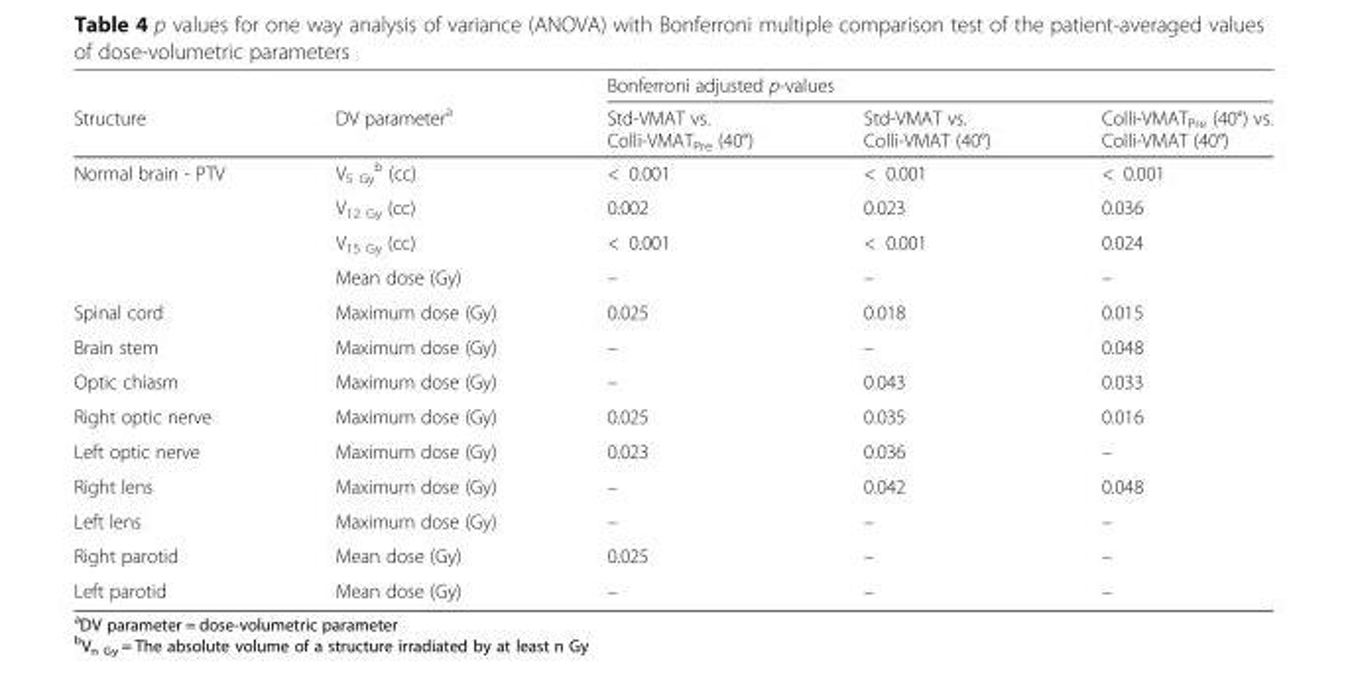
<table><thead><tr><td rowspan="2">Structure</td><td rowspan="2">DV parameter<sup>a</sup></td><td colspan="3">Bonferroni adjusted p-values</td></tr><tr><td>Std-VMAT vs. Colli-VMAT<sub>Pre</sub> (40°)</td><td>Std-VMAT vs. Colli-VMAT (40°)</td><td>Colli-VMAT<sub>Pre</sub> (40°) vs. Colli-VMAT (40°)</td></tr></thead><tbody><tr><td rowspan="4">Normal brain - PTV</td><td>V<sub>5 Gy</sub> <sup>b</sup> (cc)</td><td>&lt; 0.001</td><td>&lt; 0.001</td><td>&lt; 0.001</td></tr><tr><td>V<sub>12 Gy</sub> (cc)</td><td>0.002</td><td>0.023</td><td>0.036</td></tr><tr><td>V<sub>15 Gy</sub> (cc)</td><td>&lt; 0.001</td><td>&lt; 0.001</td><td>0.024</td></tr><tr><td>Mean dose (Gy)</td><td>–</td><td>–</td><td>–</td></tr><tr><td>Spinal cord</td><td>Maximum dose (Gy)</td><td>0.025</td><td>0.018</td><td>0.015</td></tr><tr><td>Brain stem</td><td>Maximum dose (Gy)</td><td>–</td><td>–</td><td>0.048</td></tr><tr><td>Optic chiasm</td><td>Maximum dose (Gy)</td><td>–</td><td>0.043</td><td>0.033</td></tr><tr><td>Right optic nerve</td><td>Maximum dose (Gy)</td><td>0.025</td><td>0.035</td><td>0.016</td></tr><tr><td>Left optic nerve</td><td>Maximum dose (Gy)</td><td>0.023</td><td>0.036</td><td>–</td></tr><tr><td>Right lens</td><td>Maximum dose (Gy)</td><td>–</td><td>0.042</td><td>0.048</td></tr><tr><td>Left lens</td><td>Maximum dose (Gy)</td><td>–</td><td>–</td><td>–</td></tr><tr><td>Right parotid</td><td>Mean dose (Gy)</td><td>0.025</td><td>–</td><td>–</td></tr><tr><td>Left parotid</td><td>Mean dose (Gy)</td><td>–</td><td>–</td><td>–</td></tr></tbody></table>